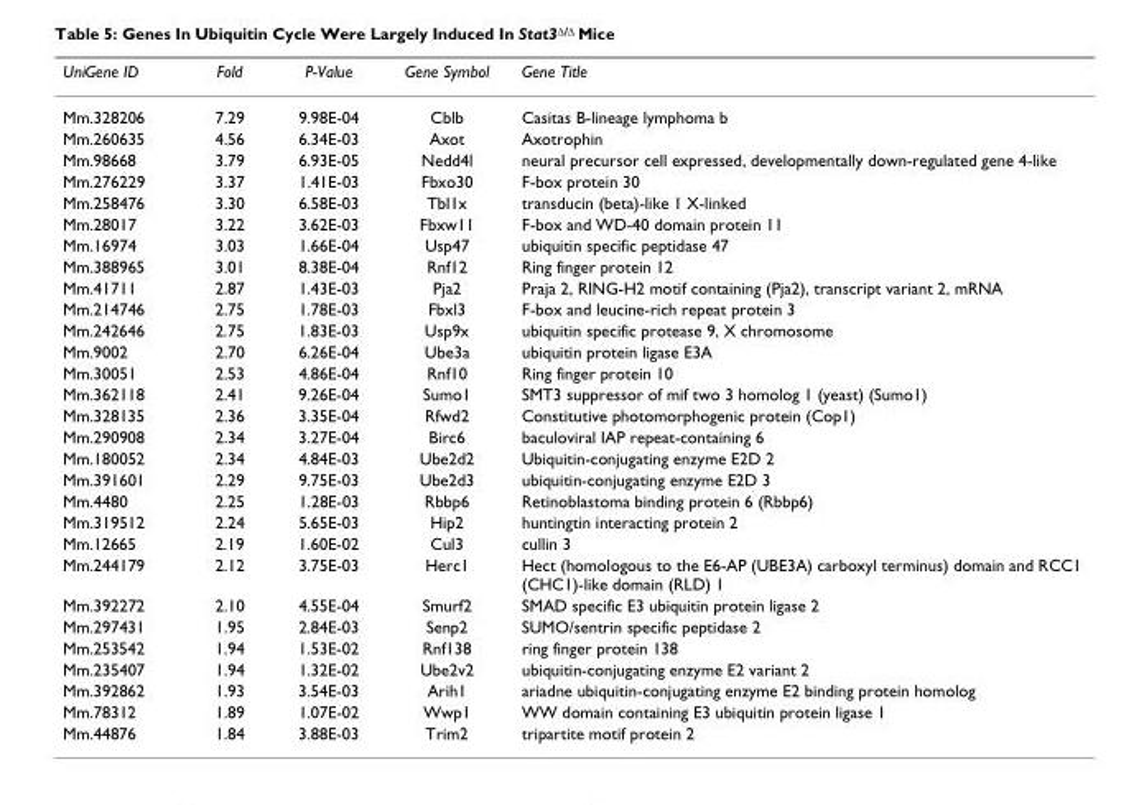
<table><thead><tr><td>UniGene ID</td><td>Fold</td><td>P-Value</td><td>Gene Symbol</td><td>Gene Title</td></tr></thead><tbody><tr><td>Mm.328206</td><td>7.29</td><td>9.98E-04</td><td>Cblb</td><td>Casitas B-lineage lymphoma b</td></tr><tr><td>Mm.260635</td><td>4.56</td><td>6.34E-03</td><td>Axot</td><td>Axotrophin</td></tr><tr><td>Mm.98668</td><td>3.79</td><td>6.93E-05</td><td>Nedd4l</td><td>neural precursor cell expressed, developmentally down-regulated gene 4-like</td></tr><tr><td>Mm.276229</td><td>3.37</td><td>1.41E-03</td><td>Fbxo30</td><td>F-box protein 30</td></tr><tr><td>Mm.258476</td><td>3.30</td><td>6.58E-03</td><td>Tbl1x</td><td>transducin (beta)-like 1 X-linked</td></tr><tr><td>Mm.28017</td><td>3.22</td><td>3.62E-03</td><td>Fbxw11</td><td>F-box and WD-40 domain protein 11</td></tr><tr><td>Mm.16974</td><td>3.03</td><td>1.66E-04</td><td>Usp47</td><td>ubiquitin specific peptidase 47</td></tr><tr><td>Mm.388965</td><td>3.01</td><td>8.38E-04</td><td>Rnf12</td><td>Ring finger protein 12</td></tr><tr><td>Mm.41711</td><td>2.87</td><td>1.43E-03</td><td>Pja2</td><td>Praja 2, RING-H2 motif containing (Pja2), transcript variant 2, mRNA</td></tr><tr><td>Mm.214746</td><td>2.75</td><td>1.78E-03</td><td>Fbxl3</td><td>F-box and leucine-rich repeat protein 3</td></tr><tr><td>Mm.242646</td><td>2.75</td><td>1.83E-03</td><td>Usp9x</td><td>ubiquitin specific protease 9, X chromosome</td></tr><tr><td>Mm.9002</td><td>2.70</td><td>6.26E-04</td><td>Ube3a</td><td>ubiquitin protein ligase E3A</td></tr><tr><td>Mm.30051</td><td>2.53</td><td>4.86E-04</td><td>Rnf10</td><td>Ring finger protein 10</td></tr><tr><td>Mm.362118</td><td>2.41</td><td>9.26E-04</td><td>Sumo1</td><td>SMT3 suppressor of mif two 3 homolog 1 (yeast) (Sumo1)</td></tr><tr><td>Mm.328135</td><td>2.36</td><td>3.35E-04</td><td>Rfwd2</td><td>Constitutive photomorphogenic protein (Cop1)</td></tr><tr><td>Mm.290908</td><td>2.34</td><td>3.27E-04</td><td>Birc6</td><td>baculoviral IAP repeat-containing 6</td></tr><tr><td>Mm.180052</td><td>2.34</td><td>4.84E-03</td><td>Ube2d2</td><td>Ubiquitin-conjugating enzyme E2D 2</td></tr><tr><td>Mm.391601</td><td>2.29</td><td>9.75E-03</td><td>Ube2d3</td><td>ubiquitin-conjugating enzyme E2D 3</td></tr><tr><td>Mm.4480</td><td>2.25</td><td>1.28E-03</td><td>Rbbp6</td><td>Retinoblastoma binding protein 6 (Rbbp6)</td></tr><tr><td>Mm.319512</td><td>2.24</td><td>5.65E-03</td><td>Hip2</td><td>huntingtin interacting protein 2</td></tr><tr><td>Mm.12665</td><td>2.19</td><td>1.60E-02</td><td>Cul3</td><td>cullin 3</td></tr><tr><td>Mm.244179</td><td>2.12</td><td>3.75E-03</td><td>Herc1</td><td>Hect (homologous to the E6-AP (UBE3A) carboxyl terminus) domain and RCC1 (CHC1)-like domain (RLD) 1</td></tr><tr><td>Mm.392272</td><td>2.10</td><td>4.55E-04</td><td>Smurf2</td><td>SMAD specific E3 ubiquitin protein ligase 2</td></tr><tr><td>Mm.297431</td><td>1.95</td><td>2.84E-03</td><td>Senp2</td><td>SUMO/sentrin specific peptidase 2</td></tr><tr><td>Mm.253542</td><td>1.94</td><td>1.53E-02</td><td>Rnf138</td><td>ring finger protein 138</td></tr><tr><td>Mm.235407</td><td>1.94</td><td>1.32E-02</td><td>Ube2v2</td><td>ubiquitin-conjugating enzyme E2 variant 2</td></tr><tr><td>Mm.392862</td><td>1.93</td><td>3.54E-03</td><td>Arih1</td><td>ariadne ubiquitin-conjugating enzyme E2 binding protein homolog</td></tr><tr><td>Mm.78312</td><td>1.89</td><td>1.07E-02</td><td>Wwp1</td><td>WW domain containing E3 ubiquitin protein ligase 1</td></tr><tr><td>Mm.44876</td><td>1.84</td><td>3.88E-03</td><td>Trim2</td><td>tripartite motif protein 2</td></tr></tbody></table>